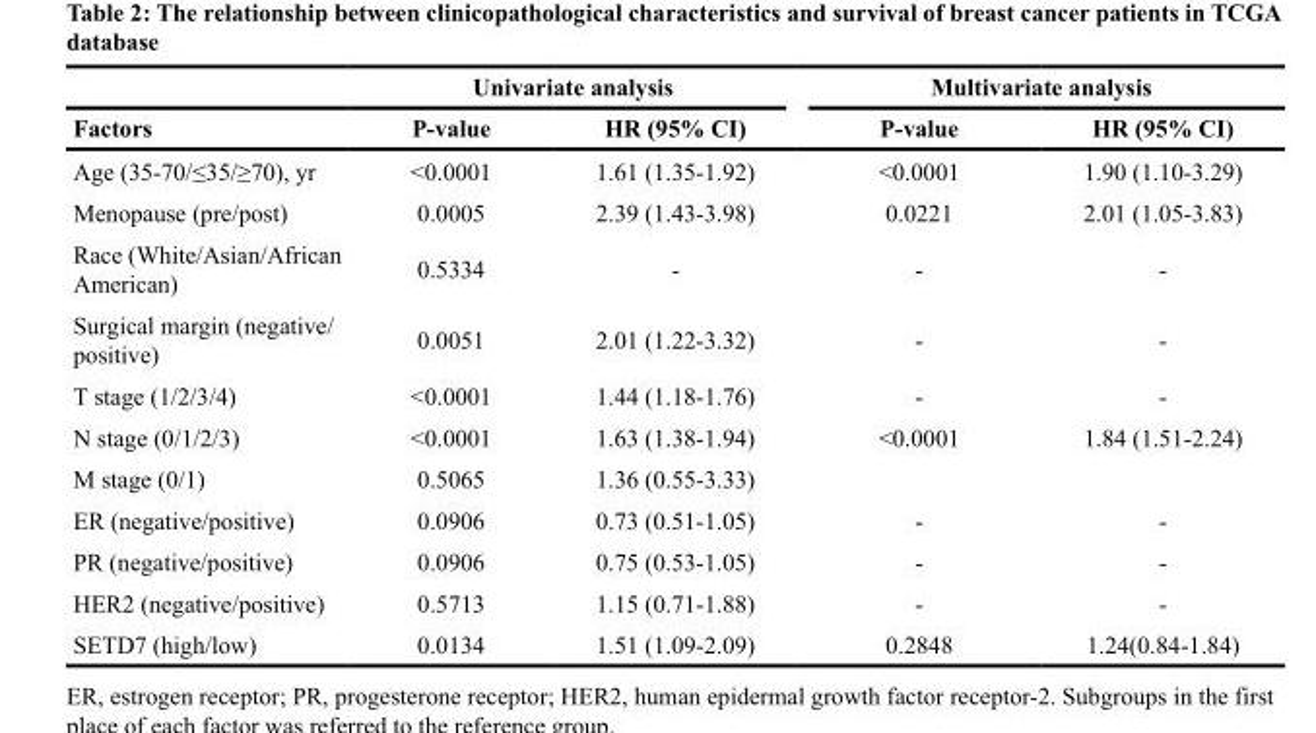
<table><thead><tr><td rowspan="2">Factors</td><td colspan="2">Univariate analysis</td><td colspan="2">Multivariate analysis</td></tr><tr><td>P-value</td><td>HR (95% CI)</td><td>P-value</td><td>HR (95% CI)</td></tr></thead><tbody><tr><td>Age (35-70/≤35/≥70), yr</td><td>&lt;0.0001</td><td>1.61 (1.35-1.92)</td><td>&lt;0.0001</td><td>1.90 (1.10-3.29)</td></tr><tr><td>Menopause (pre/post)</td><td>0.0005</td><td>2.39 (1.43-3.98)</td><td>0.0221</td><td>2.01 (1.05-3.83)</td></tr><tr><td>Race (White/Asian/African American)</td><td>0.5334</td><td>-</td><td>-</td><td>-</td></tr><tr><td>Surgical margin (negative/ positive)</td><td>0.0051</td><td>2.01 (1.22-3.32)</td><td>-</td><td>-</td></tr><tr><td>T stage (1/2/3/4)</td><td>&lt;0.0001</td><td>1.44 (1.18-1.76)</td><td>-</td><td>-</td></tr><tr><td>N stage (0/1/2/3)</td><td>&lt;0.0001</td><td>1.63 (1.38-1.94)</td><td>&lt;0.0001</td><td>1.84 (1.51-2.24)</td></tr><tr><td>M stage (0/1)</td><td>0.5065</td><td>1.36 (0.55-3.33)</td><td></td><td></td></tr><tr><td>ER (negative/positive)</td><td>0.0906</td><td>0.73 (0.51-1.05)</td><td>-</td><td>-</td></tr><tr><td>PR (negative/positive)</td><td>0.0906</td><td>0.75 (0.53-1.05)</td><td>-</td><td>-</td></tr><tr><td>HER2 (negative/positive)</td><td>0.5713</td><td>1.15 (0.71-1.88)</td><td>-</td><td>-</td></tr><tr><td>SETD7 (high/low)</td><td>0.0134</td><td>1.51 (1.09-2.09)</td><td>0.2848</td><td>1.24(0.84-1.84)</td></tr></tbody></table>